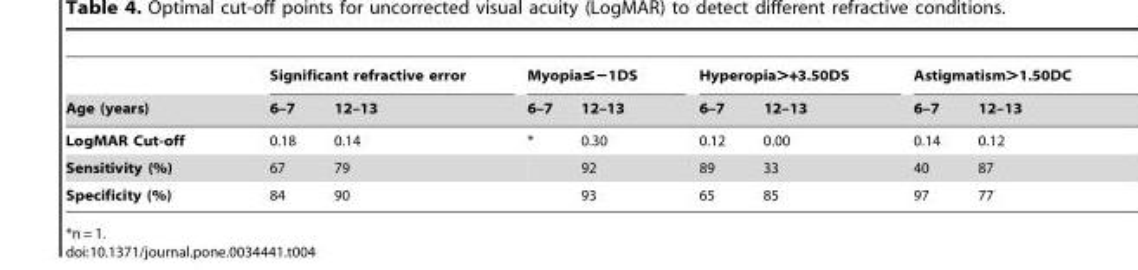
<table><thead><tr><td rowspan="2">Age (years)</td><td colspan="2">Significant refractive error</td><td colspan="2">Myopia≤−1DS</td><td colspan="2">Hyperopia&gt;+3.50DS</td><td colspan="2">Astigmatism&gt;1.50DC</td></tr><tr><td>6–7</td><td>12–13</td><td>6–7</td><td>12–13</td><td>6–7</td><td>12–13</td><td>6–7</td><td>12–13</td></tr></thead><tbody><tr><td>LogMAR Cut-off</td><td>0.18</td><td>0.14</td><td>*</td><td>0.30</td><td>0.12</td><td>0.00</td><td>0.14</td><td>0.12</td></tr><tr><td>Sensitivity (%)</td><td>67</td><td>79</td><td></td><td>92</td><td>89</td><td>33</td><td>40</td><td>87</td></tr><tr><td>Specificity (%)</td><td>84</td><td>90</td><td></td><td>93</td><td>65</td><td>85</td><td>97</td><td>77</td></tr></tbody></table>